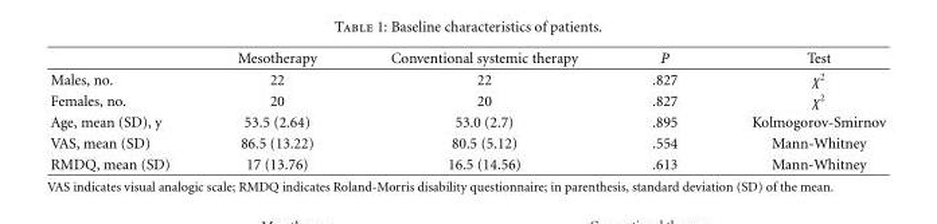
<table><thead><tr><td></td><td>Mesotherapy</td><td>Conventional systemic therapy</td><td>P</td><td>Test</td></tr></thead><tbody><tr><td>Males, no.</td><td>22</td><td>22</td><td>.827</td><td>χ<sup>2</sup></td></tr><tr><td>Females, no.</td><td>20</td><td>20</td><td>.827</td><td>χ<sup>2</sup></td></tr><tr><td>Age, mean (SD), y</td><td>53.5 (2.64)</td><td>53.0 (2.7)</td><td>.895</td><td>Kolmogorov-Smirnov</td></tr><tr><td>VAS, mean (SD)</td><td>86.5 (13.22)</td><td>80.5 (5.12)</td><td>.554</td><td>Mann-Whitney</td></tr><tr><td>RMDQ, mean (SD)</td><td>17 (13.76)</td><td>16.5 (14.56)</td><td>.613</td><td>Mann-Whitney</td></tr></tbody></table>